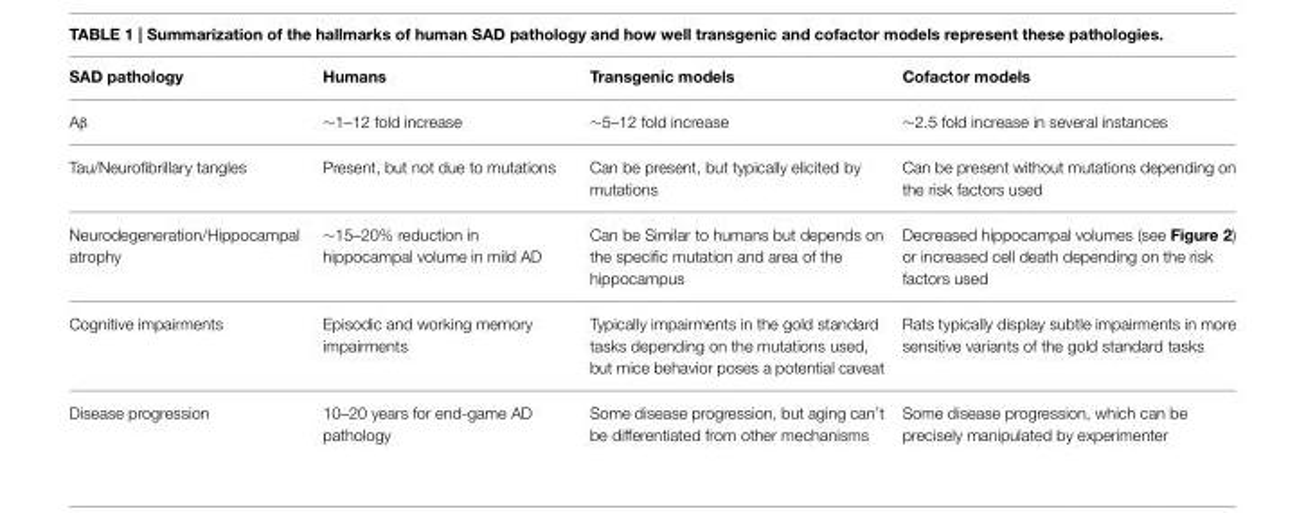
<table><thead><tr><td>SAD pathology</td><td>Humans</td><td>Transgenic models</td><td>Cofactor models</td></tr></thead><tbody><tr><td>Aβ</td><td>∼1–12 fold increase</td><td>∼5–12 fold increase</td><td>∼2.5 fold increase in several instances</td></tr><tr><td>Tau/Neurofibrillary tangles</td><td>Present, but not due to mutations</td><td>Can be present, but typically elicited by mutations</td><td>Can be present without mutations depending on the risk factors used</td></tr><tr><td>Neurodegeneration/Hippocampal atrophy</td><td>∼15–20% reduction in hippocampal volume in mild AD</td><td>Can be Similar to humans but depends on the specific mutation and area of the hippocampus</td><td>Decreased hippocampal volumes (see Figure 2) or increased cell death depending on the risk factors used</td></tr><tr><td>Cognitive impairments</td><td>Episodic and working memory impairments</td><td>Typically impairments in the gold standard tasks depending on the mutations used, but mice behavior poses a potential caveat</td><td>Rats typically display subtle impairments in more sensitive variants of the gold standard tasks</td></tr><tr><td>Disease progression</td><td>10–20 years for end-game AD pathology</td><td>Some disease progression, but aging can’t be differentiated from other mechanisms</td><td>Some disease progression, which can be precisely manipulated by experimenter</td></tr></tbody></table>